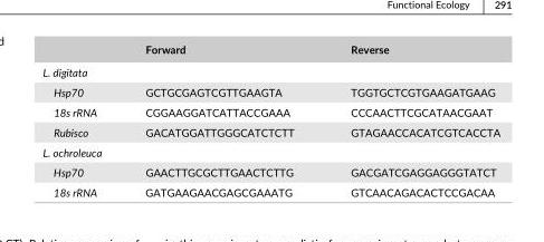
<table><thead><tr><td></td><td>Forward</td><td>Reverse</td></tr></thead><tbody><tr><td colspan="3">L. digitata</td></tr><tr><td>Hsp70</td><td>GCTGCGAGTCGTTGAAGTA</td><td>TGGTGCTCGTGAAGATGAAG</td></tr><tr><td>18s rRNA</td><td>CGGAAGGATCATTACCGAAA</td><td>CCCAACTTCGCATAACGAAT</td></tr><tr><td>Rubisco</td><td>GACATGGATTGGGCATCTCTT</td><td>GTAGAACCACATCGTCACCTA</td></tr><tr><td colspan="3">L. ochroleuca</td></tr><tr><td>Hsp70</td><td>GAACTTGCGCTTGAACTCTTG</td><td>GACGATCGAGGAGGGTATCT</td></tr><tr><td>18s rRNA</td><td>GATGAAGAACGAGCGAAATG</td><td>GTCAACAGACACTCCGACAA</td></tr></tbody></table>